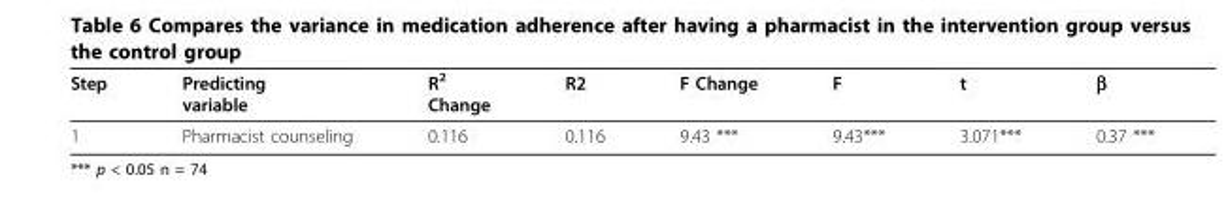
<table><thead><tr><td>Step</td><td>Predicting variable</td><td>R<sup>2</sup> Change</td><td>R2</td><td>F Change</td><td>F</td><td>t</td><td>β</td></tr></thead><tbody><tr><td>1</td><td>Pharmacist counseling</td><td>0.116</td><td>0.116</td><td>9.43 ***</td><td>9.43***</td><td>3.071***</td><td>0.37 ***</td></tr></tbody></table>